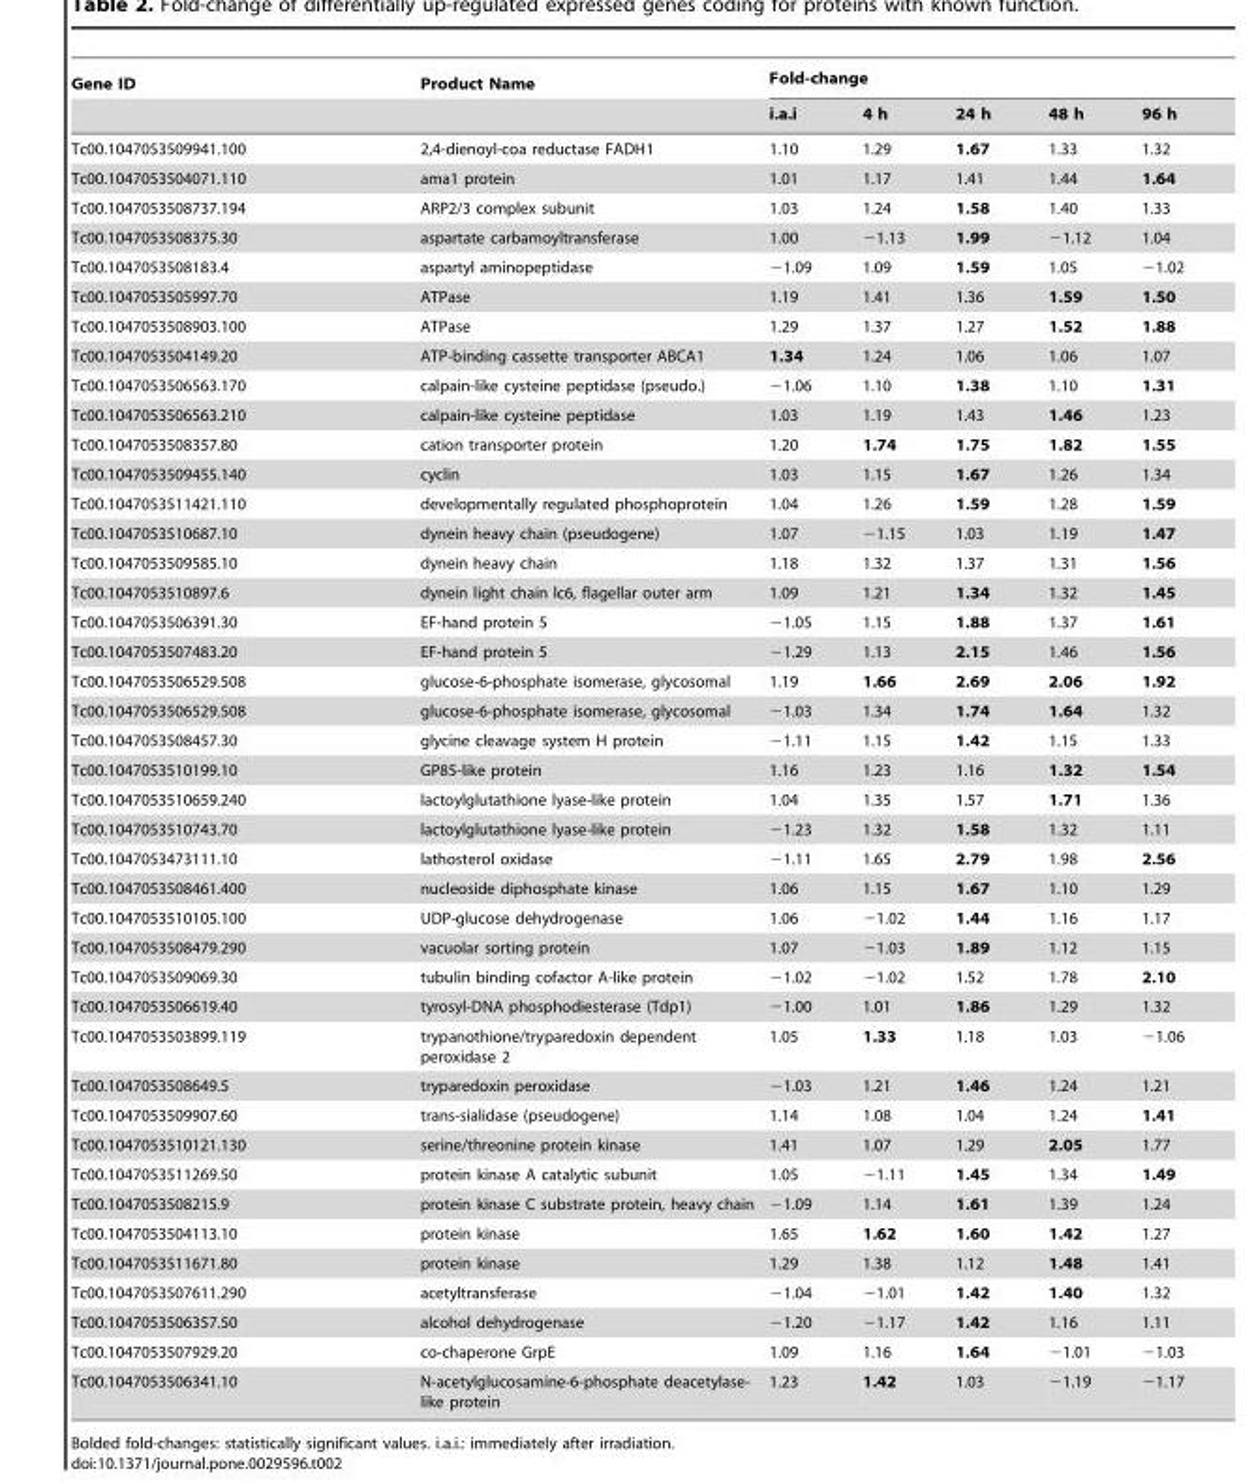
<table><thead><tr><td rowspan="2">Gene ID</td><td rowspan="2">Product Name</td><td colspan="5">Fold-change</td></tr><tr><td>i.a.i</td><td>4 h</td><td>24 h</td><td>48 h</td><td>96 h</td></tr></thead><tbody><tr><td>Tc00.1047053509941.100</td><td>2,4-dienoyl-coa reductase FADH1</td><td>1.10</td><td>1.29</td><td>1.67</td><td>1.33</td><td>1.32</td></tr><tr><td>Tc00.1047053504071.110</td><td>ama1 protein</td><td>1.01</td><td>1.17</td><td>1.41</td><td>1.44</td><td>1.64</td></tr><tr><td>Tc00.1047053508737.194</td><td>ARP2/3 complex subunit</td><td>1.03</td><td>1.24</td><td>1.58</td><td>1.40</td><td>1.33</td></tr><tr><td>Tc00.1047053508375.30</td><td>aspartate carbamoyltransferase</td><td>1.00</td><td>−1.13</td><td>1.99</td><td>−1.12</td><td>1.04</td></tr><tr><td>Tc00.1047053508183.4</td><td>aspartyl aminopeptidase</td><td>−1.09</td><td>1.09</td><td>1.59</td><td>1.05</td><td>−1.02</td></tr><tr><td>Tc00.1047053505997.70</td><td>ATPase</td><td>1.19</td><td>1.41</td><td>1.36</td><td>1.59</td><td>1.50</td></tr><tr><td>Tc00.1047053508903.100</td><td>ATPase</td><td>1.29</td><td>1.37</td><td>1.27</td><td>1.52</td><td>1.88</td></tr><tr><td>Tc00.1047053504149.20</td><td>ATP-binding cassette transporter ABCA1</td><td>1.34</td><td>1.24</td><td>1.06</td><td>1.06</td><td>1.07</td></tr><tr><td>Tc00.1047053506563.170</td><td>calpain-like cysteine peptidase (pseudo.)</td><td>−1.06</td><td>1.10</td><td>1.38</td><td>1.10</td><td>1.31</td></tr><tr><td>Tc00.1047053506563.210</td><td>calpain-like cysteine peptidase</td><td>1.03</td><td>1.19</td><td>1.43</td><td>1.46</td><td>1.23</td></tr><tr><td>Tc00.1047053508357.80</td><td>cation transporter protein</td><td>1.20</td><td>1.74</td><td>1.75</td><td>1.82</td><td>1.55</td></tr><tr><td>Tc00.1047053509455.140</td><td>cyclin</td><td>1.03</td><td>1.15</td><td>1.67</td><td>1.26</td><td>1.34</td></tr><tr><td>Tc00.1047053511421.110</td><td>developmentally regulated phosphoprotein</td><td>1.04</td><td>1.26</td><td>1.59</td><td>1.28</td><td>1.59</td></tr><tr><td>Tc00.1047053510687.10</td><td>dynein heavy chain (pseudogene)</td><td>1.07</td><td>−1.15</td><td>1.03</td><td>1.19</td><td>1.47</td></tr><tr><td>Tc00.1047053509585.10</td><td>dynein heavy chain</td><td>1.18</td><td>1.32</td><td>1.37</td><td>1.31</td><td>1.56</td></tr><tr><td>Tc00.1047053510897.6</td><td>dynein light chain lc6, flagellar outer arm</td><td>1.09</td><td>1.21</td><td>1.34</td><td>1.32</td><td>1.45</td></tr><tr><td>Tc00.1047053506391.30</td><td>EF-hand protein 5</td><td>−1.05</td><td>1.15</td><td>1.88</td><td>1.37</td><td>1.61</td></tr><tr><td>Tc00.1047053507483.20</td><td>EF-hand protein 5</td><td>−1.29</td><td>1.13</td><td>2.15</td><td>1.46</td><td>1.56</td></tr><tr><td>Tc00.1047053506529.508</td><td>glucose-6-phosphate isomerase, glycosomal</td><td>1.19</td><td>1.66</td><td>2.69</td><td>2.06</td><td>1.92</td></tr><tr><td>Tc00.1047053506529.508</td><td>glucose-6-phosphate isomerase, glycosomal</td><td>−1.03</td><td>1.34</td><td>1.74</td><td>1.64</td><td>1.32</td></tr><tr><td>Tc00.1047053508457.30</td><td>glycine cleavage system H protein</td><td>−1.11</td><td>1.15</td><td>1.42</td><td>1.15</td><td>1.33</td></tr><tr><td>Tc00.1047053510199.10</td><td>GP85-like protein</td><td>1.16</td><td>1.23</td><td>1.16</td><td>1.32</td><td>1.54</td></tr><tr><td>Tc00.1047053510659.240</td><td>lactoylglutathione lyase-like protein</td><td>1.04</td><td>1.35</td><td>1.57</td><td>1.71</td><td>1.36</td></tr><tr><td>Tc00.1047053510743.70</td><td>lactoylglutathione lyase-like protein</td><td>−1.23</td><td>1.32</td><td>1.58</td><td>1.32</td><td>1.11</td></tr><tr><td>Tc00.1047053473111.10</td><td>lathosterol oxidase</td><td>−1.11</td><td>1.65</td><td>2.79</td><td>1.98</td><td>2.56</td></tr><tr><td>Tc00.1047053508461.400</td><td>nucleoside diphosphate kinase</td><td>1.06</td><td>1.15</td><td>1.67</td><td>1.10</td><td>1.29</td></tr><tr><td>Tc00.1047053510105.100</td><td>UDP-glucose dehydrogenase</td><td>1.06</td><td>−1.02</td><td>1.44</td><td>1.16</td><td>1.17</td></tr><tr><td>Tc00.1047053508479.290</td><td>vacuolar sorting protein</td><td>1.07</td><td>−1.03</td><td>1.89</td><td>1.12</td><td>1.15</td></tr><tr><td>Tc00.1047053509069.30</td><td>tubulin binding cofactor A-like protein</td><td>−1.02</td><td>−1.02</td><td>1.52</td><td>1.78</td><td>2.10</td></tr><tr><td>Tc00.1047053506619.40</td><td>tyrosyl-DNA phosphodiesterase (Tdp1)</td><td>−1.00</td><td>1.01</td><td>1.86</td><td>1.29</td><td>1.32</td></tr><tr><td>Tc00.1047053503899.119</td><td>trypanothione/tryparedoxin dependent peroxidase 2</td><td>1.05</td><td>1.33</td><td>1.18</td><td>1.03</td><td>−1.06</td></tr><tr><td>Tc00.1047053508649.5</td><td>tryparedoxin peroxidase</td><td>−1.03</td><td>1.21</td><td>1.46</td><td>1.24</td><td>1.21</td></tr><tr><td>Tc00.1047053509907.60</td><td>trans-sialidase (pseudogene)</td><td>1.14</td><td>1.08</td><td>1.04</td><td>1.24</td><td>1.41</td></tr><tr><td>Tc00.1047053510121.130</td><td>serine/threonine protein kinase</td><td>1.41</td><td>1.07</td><td>1.29</td><td>2.05</td><td>1.77</td></tr><tr><td>Tc00.1047053511269.50</td><td>protein kinase A catalytic subunit</td><td>1.05</td><td>−1.11</td><td>1.45</td><td>1.34</td><td>1.49</td></tr><tr><td>Tc00.1047053508215.9</td><td>protein kinase C substrate protein, heavy chain</td><td>−1.09</td><td>1.14</td><td>1.61</td><td>1.39</td><td>1.24</td></tr><tr><td>Tc00.1047053504113.10</td><td>protein kinase</td><td>1.65</td><td>1.62</td><td>1.60</td><td>1.42</td><td>1.27</td></tr><tr><td>Tc00.1047053511671.80</td><td>protein kinase</td><td>1.29</td><td>1.38</td><td>1.12</td><td>1.48</td><td>1.41</td></tr><tr><td>Tc00.1047053507611.290</td><td>acetyltransferase</td><td>−1.04</td><td>−1.01</td><td>1.42</td><td>1.40</td><td>1.32</td></tr><tr><td>Tc00.1047053506357.50</td><td>alcohol dehydrogenase</td><td>−1.20</td><td>−1.17</td><td>1.42</td><td>1.16</td><td>1.11</td></tr><tr><td>Tc00.1047053507929.20</td><td>co-chaperone GrpE</td><td>1.09</td><td>1.16</td><td>1.64</td><td>−1.01</td><td>−1.03</td></tr><tr><td>Tc00.1047053506341.10</td><td>N-acetylglucosamine-6-phosphate deacetylase- like protein</td><td>1.23</td><td>1.42</td><td>1.03</td><td>−1.19</td><td>−1.17</td></tr></tbody></table>